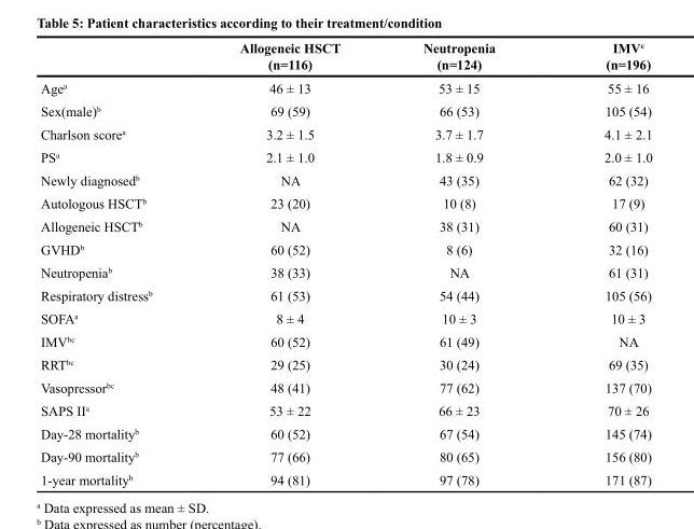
<table><thead><tr><td></td><td>Allogeneic HSCT (n=116)</td><td>Neutropenia (n=124)</td><td>IMVc (n=196)</td></tr></thead><tbody><tr><td>Age<sup>a</sup></td><td>46 ± 13</td><td>53 ± 15</td><td>55 ± 16</td></tr><tr><td>Sex(male)<sup>b</sup></td><td>69 (59)</td><td>66 (53)</td><td>105 (54)</td></tr><tr><td>Charlson score<sup>a</sup></td><td>3.2 ± 1.5</td><td>3.7 ± 1.7</td><td>4.1 ± 2.1</td></tr><tr><td>PS<sup>a</sup></td><td>2.1 ± 1.0</td><td>1.8 ± 0.9</td><td>2.0 ± 1.0</td></tr><tr><td>Newly diagnosed<sup>b</sup></td><td>NA</td><td>43 (35)</td><td>62 (32)</td></tr><tr><td>Autologous HSCT<sup>b</sup></td><td>23 (20)</td><td>10 (8)</td><td>17 (9)</td></tr><tr><td>Allogeneic HSCT<sup>b</sup></td><td>NA</td><td>38 (31)</td><td>60 (31)</td></tr><tr><td>GVHD<sup>b</sup></td><td>60 (52)</td><td>8 (6)</td><td>32 (16)</td></tr><tr><td>Neutropenia<sup>b</sup></td><td>38 (33)</td><td>NA</td><td>61 (31)</td></tr><tr><td>Respiratory distress<sup>b</sup></td><td>61 (53)</td><td>54 (44)</td><td>105 (56)</td></tr><tr><td>SOFA<sup>a</sup></td><td>8 ± 4</td><td>10 ± 3</td><td>10 ± 3</td></tr><tr><td>IMV<sup>bc</sup></td><td>60 (52)</td><td>61 (49)</td><td>NA</td></tr><tr><td>RRT<sup>bc</sup></td><td>29 (25)</td><td>30 (24)</td><td>69 (35)</td></tr><tr><td>Vasopressor<sup>bc</sup></td><td>48 (41)</td><td>77 (62)</td><td>137 (70)</td></tr><tr><td>SAPS II<sup>a</sup></td><td>53 ± 22</td><td>66 ± 23</td><td>70 ± 26</td></tr><tr><td>Day-28 mortality<sup>b</sup></td><td>60 (52)</td><td>67 (54)</td><td>145 (74)</td></tr><tr><td>Day-90 mortality<sup>b</sup></td><td>77 (66)</td><td>80 (65)</td><td>156 (80)</td></tr><tr><td>1-year mortality<sup>b</sup></td><td>94 (81)</td><td>97 (78)</td><td>171 (87)</td></tr></tbody></table>